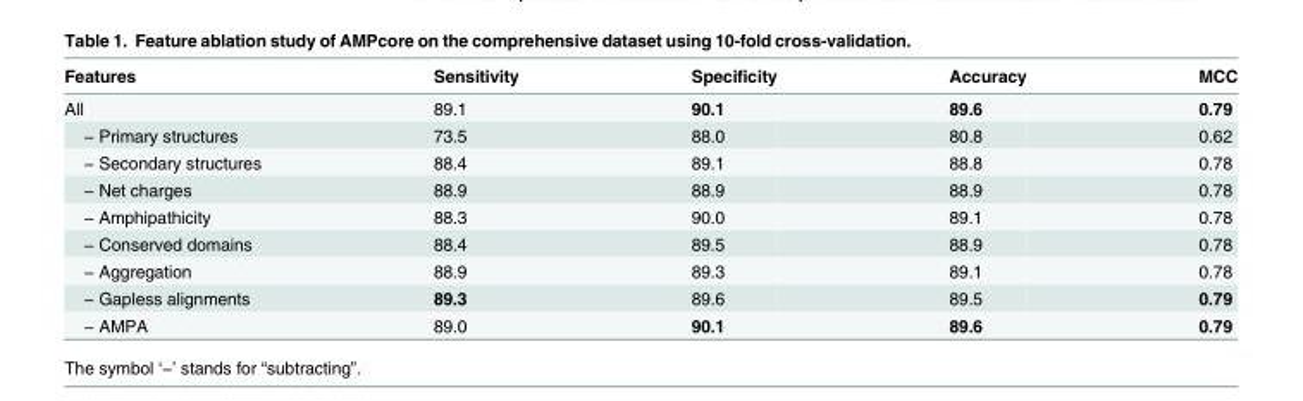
<table><thead><tr><td>Features</td><td>Sensitivity</td><td>Specificity</td><td>Accuracy</td><td>MCC</td></tr></thead><tbody><tr><td>All</td><td>89.1</td><td>90.1</td><td>89.6</td><td>0.79</td></tr><tr><td>− Primary structures</td><td>73.5</td><td>88.0</td><td>80.8</td><td>0.62</td></tr><tr><td>− Secondary structures</td><td>88.4</td><td>89.1</td><td>88.8</td><td>0.78</td></tr><tr><td>− Net charges</td><td>88.9</td><td>88.9</td><td>88.9</td><td>0.78</td></tr><tr><td>− Amphipathicity</td><td>88.3</td><td>90.0</td><td>89.1</td><td>0.78</td></tr><tr><td>− Conserved domains</td><td>88.4</td><td>89.5</td><td>88.9</td><td>0.78</td></tr><tr><td>− Aggregation</td><td>88.9</td><td>89.3</td><td>89.1</td><td>0.78</td></tr><tr><td>− Gapless alignments</td><td>89.3</td><td>89.6</td><td>89.5</td><td>0.79</td></tr><tr><td>− AMPA</td><td>89.0</td><td>90.1</td><td>89.6</td><td>0.79</td></tr></tbody></table>